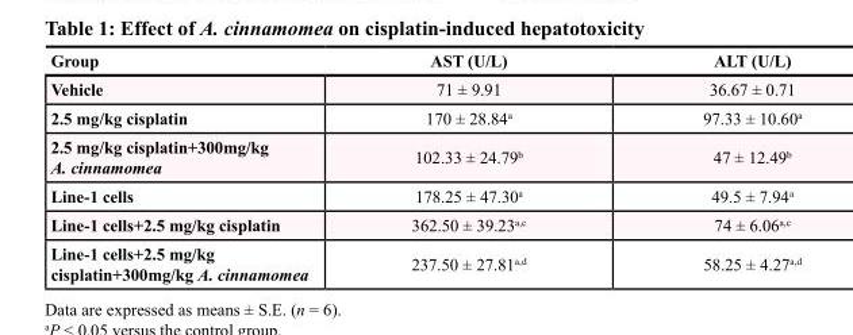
<table><thead><tr><td>Group</td><td>AST (U/L)</td><td>ALT (U/L)</td></tr></thead><tbody><tr><td>Vehicle</td><td>71 ± 9.91</td><td>36.67 ± 0.71</td></tr><tr><td>2.5 mg/kg cisplatin</td><td>170 ± 28.84<sup>a</sup></td><td>97.33 ± 10.60<sup>a</sup></td></tr><tr><td>2.5 mg/kg cisplatin+300mg/kg A. cinnamomea</td><td>102.33 ± 24.79<sup>b</sup></td><td>47 ± 12.49<sup>b</sup></td></tr><tr><td>Line-1 cells</td><td>178.25 ± 47.30<sup>a</sup></td><td>49.5 ± 7.94<sup>a</sup></td></tr><tr><td>Line-1 cells+2.5 mg/kg cisplatin</td><td>362.50 ± 39.23<sup>a</sup>,<sup>c</sup></td><td>74 ± 6.06<sup>a</sup>,<sup>c</sup></td></tr><tr><td>Line-1 cells+2.5 mg/kg cisplatin+300mg/kg A. cinnamomea</td><td>237.50 ± 27.81<sup>a</sup>,<sup>d</sup></td><td>58.25 ± 4.27<sup>a</sup>,<sup>d</sup></td></tr></tbody></table>